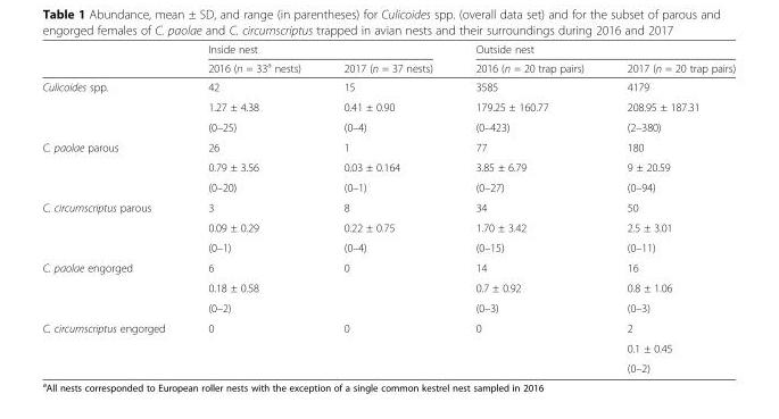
<table><thead><tr><td rowspan="2"></td><td colspan="2">Inside nest</td><td colspan="2">Outside nest</td></tr><tr><td>2016 (n = 33<sup>a</sup> nests)</td><td>2017 (n = 37 nests)</td><td>2016 (n = 20 trap pairs)</td><td>2017 (n = 20 trap pairs)</td></tr></thead><tbody><tr><td rowspan="3">Culicoides spp.</td><td>42</td><td>15</td><td>3585</td><td>4179</td></tr><tr><td>1.27 ± 4.38</td><td>0.41 ± 0.90</td><td>179.25 ± 160.77</td><td>208.95 ± 187.31</td></tr><tr><td>(0–25)</td><td>(0–4)</td><td>(0–423)</td><td>(2–380)</td></tr><tr><td rowspan="3">C. paolae parous</td><td>26</td><td>1</td><td>77</td><td>180</td></tr><tr><td>0.79 ± 3.56</td><td>0.03 ± 0.164</td><td>3.85 ± 6.79</td><td>9 ± 20.59</td></tr><tr><td>(0–20)</td><td>(0–1)</td><td>(0–27)</td><td>(0–94)</td></tr><tr><td rowspan="3">C. circumscriptus parous</td><td>3</td><td>8</td><td>34</td><td>50</td></tr><tr><td>0.09 ± 0.29</td><td>0.22 ± 0.75</td><td>1.70 ± 3.42</td><td>2.5 ± 3.01</td></tr><tr><td>(0–1)</td><td>(0–4)</td><td>(0–15)</td><td>(0–11)</td></tr><tr><td rowspan="3">C. paolae engorged</td><td>6</td><td>0</td><td>14</td><td>16</td></tr><tr><td>0.18 ± 0.58</td><td></td><td>0.7 ± 0.92</td><td>0.8 ± 1.06</td></tr><tr><td>(0–2)</td><td></td><td>(0–3)</td><td>(0–3)</td></tr><tr><td rowspan="3">C. circumscriptus engorged</td><td>0</td><td>0</td><td>0</td><td>2</td></tr><tr><td></td><td></td><td></td><td>0.1 ± 0.45</td></tr><tr><td></td><td></td><td></td><td>(0–2)</td></tr></tbody></table>